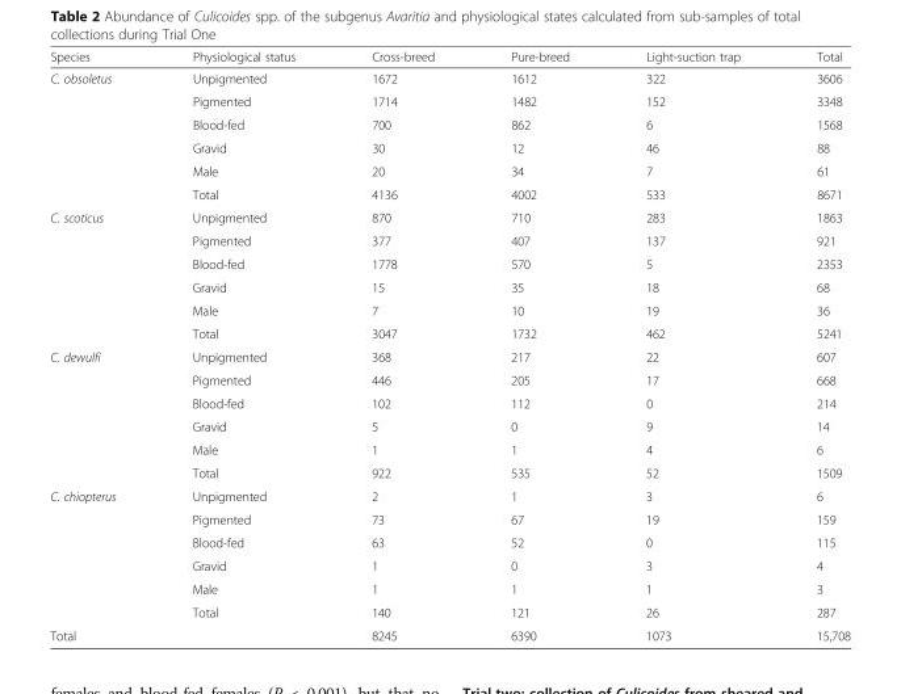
<table><thead><tr><td>Species</td><td>Physiological status</td><td>Cross-breed</td><td>Pure-breed</td><td>Light-suction trap</td><td>Total</td></tr></thead><tbody><tr><td rowspan="6">C. obsoletus</td><td>Unpigmented</td><td>1672</td><td>1612</td><td>322</td><td>3606</td></tr><tr><td>Pigmented</td><td>1714</td><td>1482</td><td>152</td><td>3348</td></tr><tr><td>Blood-fed</td><td>700</td><td>862</td><td>6</td><td>1568</td></tr><tr><td>Gravid</td><td>30</td><td>12</td><td>46</td><td>88</td></tr><tr><td>Male</td><td>20</td><td>34</td><td>7</td><td>61</td></tr><tr><td>Total</td><td>4136</td><td>4002</td><td>533</td><td>8671</td></tr><tr><td rowspan="6">C. scoticus</td><td>Unpigmented</td><td>870</td><td>710</td><td>283</td><td>1863</td></tr><tr><td>Pigmented</td><td>377</td><td>407</td><td>137</td><td>921</td></tr><tr><td>Blood-fed</td><td>1778</td><td>570</td><td>5</td><td>2353</td></tr><tr><td>Gravid</td><td>15</td><td>35</td><td>18</td><td>68</td></tr><tr><td>Male</td><td>7</td><td>10</td><td>19</td><td>36</td></tr><tr><td>Total</td><td>3047</td><td>1732</td><td>462</td><td>5241</td></tr><tr><td rowspan="6">C. dewulfi</td><td>Unpigmented</td><td>368</td><td>217</td><td>22</td><td>607</td></tr><tr><td>Pigmented</td><td>446</td><td>205</td><td>17</td><td>668</td></tr><tr><td>Blood-fed</td><td>102</td><td>112</td><td>0</td><td>214</td></tr><tr><td>Gravid</td><td>5</td><td>0</td><td>9</td><td>14</td></tr><tr><td>Male</td><td>1</td><td>1</td><td>4</td><td>6</td></tr><tr><td>Total</td><td>922</td><td>535</td><td>52</td><td>1509</td></tr><tr><td rowspan="6">C. chiopterus</td><td>Unpigmented</td><td>2</td><td>1</td><td>3</td><td>6</td></tr><tr><td>Pigmented</td><td>73</td><td>67</td><td>19</td><td>159</td></tr><tr><td>Blood-fed</td><td>63</td><td>52</td><td>0</td><td>115</td></tr><tr><td>Gravid</td><td>1</td><td>0</td><td>3</td><td>4</td></tr><tr><td>Male</td><td>1</td><td>1</td><td>1</td><td>3</td></tr><tr><td>Total</td><td>140</td><td>121</td><td>26</td><td>287</td></tr><tr><td colspan="2">Total</td><td>8245</td><td>6390</td><td>1073</td><td>15,708</td></tr></tbody></table>